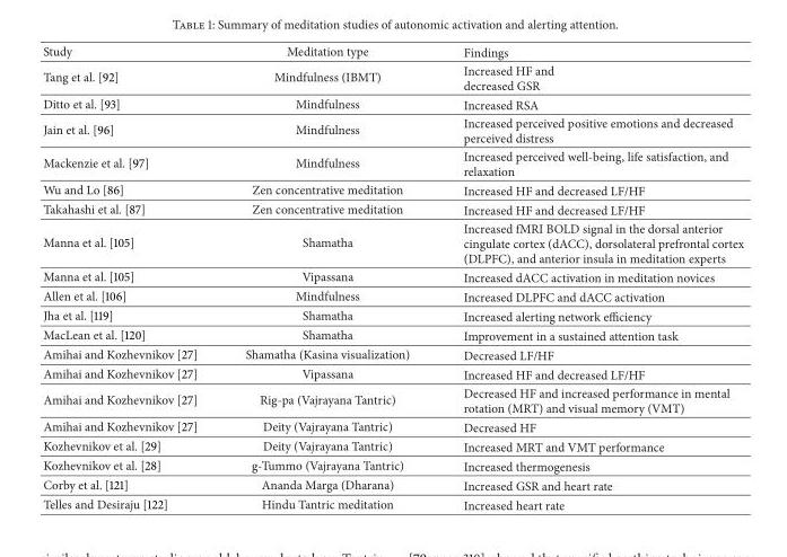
<table><thead><tr><td>Study</td><td>Meditation type</td><td>Findings</td></tr></thead><tbody><tr><td>Tang et al. [92]</td><td>Mindfulness (IBMT)</td><td>Increased HF and decreased GSR</td></tr><tr><td>Ditto et al. [93]</td><td>Mindfulness</td><td>Increased RSA</td></tr><tr><td>Jain et al. [96]</td><td>Mindfulness</td><td>Increased perceived positive emotions and decreased perceived distress</td></tr><tr><td>Mackenzie et al. [97]</td><td>Mindfulness</td><td>Increased perceived well-being, life satisfaction, and relaxation</td></tr><tr><td>Wu and Lo [86]</td><td>Zen concentrative meditation</td><td>Increased HF and decreased LF/HF</td></tr><tr><td>Takahashi et al. [87]</td><td>Zen concentrative meditation</td><td>Increased HF and decreased LF/HF</td></tr><tr><td>Manna et al. [105]</td><td>Shamatha</td><td>Increased fMRI BOLD signal in the dorsal anterior cingulate cortex (dACC), dorsolateral prefrontal cortex (DLPFC), and anterior insula in meditation experts</td></tr><tr><td>Manna et al. [105]</td><td>Vipassana</td><td>Increased dACC activation in meditation novices</td></tr><tr><td>Allen et al. [106]</td><td>Mindfulness</td><td>Increased DLPFC and dACC activation</td></tr><tr><td>Jha et al. [119]</td><td>Shamatha</td><td>Increased alerting network efficiency</td></tr><tr><td>MacLean et al. [120]</td><td>Shamatha</td><td>Improvement in a sustained attention task</td></tr><tr><td>Amihai and Kozhevnikov [27]</td><td>Shamatha (Kasina visualization)</td><td>Decreased LF/HF</td></tr><tr><td>Amihai and Kozhevnikov [27]</td><td>Vipassana</td><td>Increased HF and decreased LF/HF</td></tr><tr><td>Amihai and Kozhevnikov [27]</td><td>Rig-pa (Vajrayana Tantric)</td><td>Decreased HF and increased performance in mental rotation (MRT) and visual memory (VMT)</td></tr><tr><td>Amihai and Kozhevnikov [27]</td><td>Deity (Vajrayana Tantric)</td><td>Decreased HF</td></tr><tr><td>Kozhevnikov et al. [29]</td><td>Deity (Vajrayana Tantric)</td><td>Increased MRT and VMT performance</td></tr><tr><td>Kozhevnikov et al. [28]</td><td>g-Tummo (Vajrayana Tantric)</td><td>Increased thermogenesis</td></tr><tr><td>Corby et al. [121]</td><td>Ananda Marga (Dharana)</td><td>Increased GSR and heart rate</td></tr><tr><td>Telles and Desiraju [122]</td><td>Hindu Tantric meditation</td><td>Increased heart rate</td></tr></tbody></table>